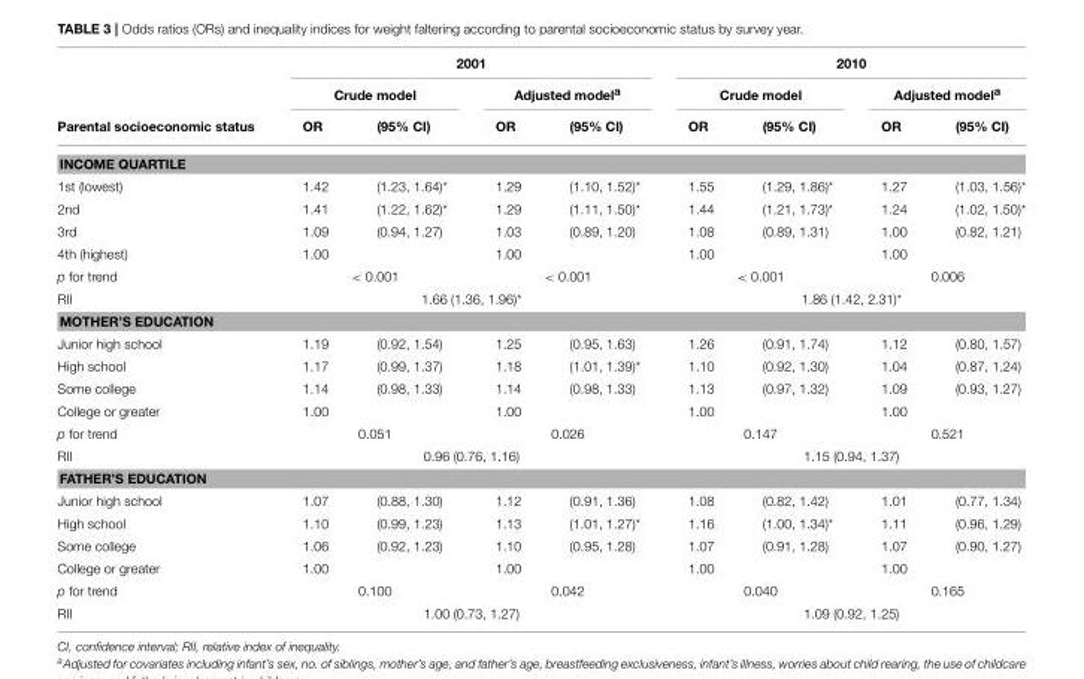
<table><thead><tr><td rowspan="3">Parental socioeconomic status</td><td colspan="4">2001</td><td colspan="4">2010</td></tr><tr><td colspan="2">Crude model</td><td colspan="2">Adjusted model<sup>a</sup></td><td colspan="2">Crude model</td><td colspan="2">Adjusted model<sup>a</sup></td></tr><tr><td>OR</td><td>(95% CI)</td><td>OR</td><td>(95% CI)</td><td>OR</td><td>(95% CI)</td><td>OR</td><td>(95% CI)</td></tr></thead><tbody><tr><td colspan="9">INCOME QUARTILE</td></tr><tr><td>1st (lowest)</td><td>1.42</td><td>(1.23, 1.64)*</td><td>1.29</td><td>(1.10, 1.52)*</td><td>1.55</td><td>(1.29, 1.86)*</td><td>1.27</td><td>(1.03, 1.56)*</td></tr><tr><td>2nd</td><td>1.41</td><td>(1.22, 1.62)*</td><td>1.29</td><td>(1.11, 1.50)*</td><td>1.44</td><td>(1.21, 1.73)*</td><td>1.24</td><td>(1.02, 1.50)*</td></tr><tr><td>3rd</td><td>1.09</td><td>(0.94, 1.27)</td><td>1.03</td><td>(0.89, 1.20)</td><td>1.08</td><td>(0.89, 1.31)</td><td>1.00</td><td>(0.82, 1.21)</td></tr><tr><td>4th (highest)</td><td>1.00</td><td></td><td>1.00</td><td></td><td>1.00</td><td></td><td>1.00</td><td></td></tr><tr><td>p for trend</td><td colspan="2">&lt; 0.001</td><td colspan="2">&lt; 0.001</td><td colspan="2">&lt; 0.001</td><td colspan="2">0.006</td></tr><tr><td>RII</td><td colspan="4">1.66 (1.36, 1.96)*</td><td colspan="4">1.86 (1.42, 2.31)*</td></tr><tr><td colspan="9">MOTHER’S EDUCATION</td></tr><tr><td>Junior high school</td><td>1.19</td><td>(0.92, 1.54)</td><td>1.25</td><td>(0.95, 1.63)</td><td>1.26</td><td>(0.91, 1.74)</td><td>1.12</td><td>(0.80, 1.57)</td></tr><tr><td>High school</td><td>1.17</td><td>(0.99, 1.37)</td><td>1.18</td><td>(1.01, 1.39)*</td><td>1.10</td><td>(0.92, 1.30)</td><td>1.04</td><td>(0.87, 1.24)</td></tr><tr><td>Some college</td><td>1.14</td><td>(0.98, 1.33)</td><td>1.14</td><td>(0.98, 1.33)</td><td>1.13</td><td>(0.97, 1.32)</td><td>1.09</td><td>(0.93, 1.27)</td></tr><tr><td>College or greater</td><td>1.00</td><td></td><td>1.00</td><td></td><td>1.00</td><td></td><td>1.00</td><td></td></tr><tr><td>p for trend</td><td colspan="2">0.051</td><td colspan="2">0.026</td><td colspan="2">0.147</td><td colspan="2">0.521</td></tr><tr><td>RII</td><td colspan="4">0.96 (0.76, 1.16)</td><td colspan="4">1.15 (0.94, 1.37)</td></tr><tr><td colspan="9">FATHER’S EDUCATION</td></tr><tr><td>Junior high school</td><td>1.07</td><td>(0.88, 1.30)</td><td>1.12</td><td>(0.91, 1.36)</td><td>1.08</td><td>(0.82, 1.42)</td><td>1.01</td><td>(0.77, 1.34)</td></tr><tr><td>High school</td><td>1.10</td><td>(0.99, 1.23)</td><td>1.13</td><td>(1.01, 1.27)*</td><td>1.16</td><td>(1.00, 1.34)*</td><td>1.11</td><td>(0.96, 1.29)</td></tr><tr><td>Some college</td><td>1.06</td><td>(0.92, 1.23)</td><td>1.10</td><td>(0.95, 1.28)</td><td>1.07</td><td>(0.91, 1.28)</td><td>1.07</td><td>(0.90, 1.27)</td></tr><tr><td>College or greater</td><td>1.00</td><td></td><td>1.00</td><td></td><td>1.00</td><td></td><td>1.00</td><td></td></tr><tr><td>p for trend</td><td colspan="2">0.100</td><td colspan="2">0.042</td><td colspan="2">0.040</td><td colspan="2">0.165</td></tr><tr><td>RII</td><td colspan="4">1.00 (0.73, 1.27)</td><td colspan="4">1.09 (0.92, 1.25)</td></tr></tbody></table>